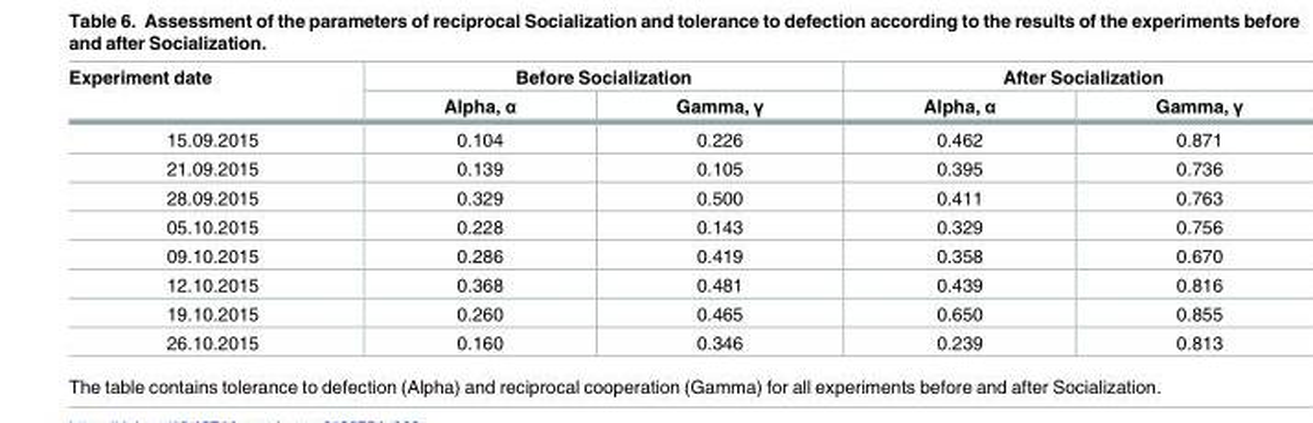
<table><thead><tr><td rowspan="2">Experiment date</td><td colspan="2">Before Socialization</td><td colspan="2">After Socialization</td></tr><tr><td>Alpha, α</td><td>Gamma, γ</td><td>Alpha, α</td><td>Gamma, γ</td></tr></thead><tbody><tr><td>15.09.2015</td><td>0.104</td><td>0.226</td><td>0.462</td><td>0.871</td></tr><tr><td>21.09.2015</td><td>0.139</td><td>0.105</td><td>0.395</td><td>0.736</td></tr><tr><td>28.09.2015</td><td>0.329</td><td>0.500</td><td>0.411</td><td>0.763</td></tr><tr><td>05.10.2015</td><td>0.228</td><td>0.143</td><td>0.329</td><td>0.756</td></tr><tr><td>09.10.2015</td><td>0.286</td><td>0.419</td><td>0.358</td><td>0.670</td></tr><tr><td>12.10.2015</td><td>0.368</td><td>0.481</td><td>0.439</td><td>0.816</td></tr><tr><td>19.10.2015</td><td>0.260</td><td>0.465</td><td>0.650</td><td>0.855</td></tr><tr><td>26.10.2015</td><td>0.160</td><td>0.346</td><td>0.239</td><td>0.813</td></tr></tbody></table>